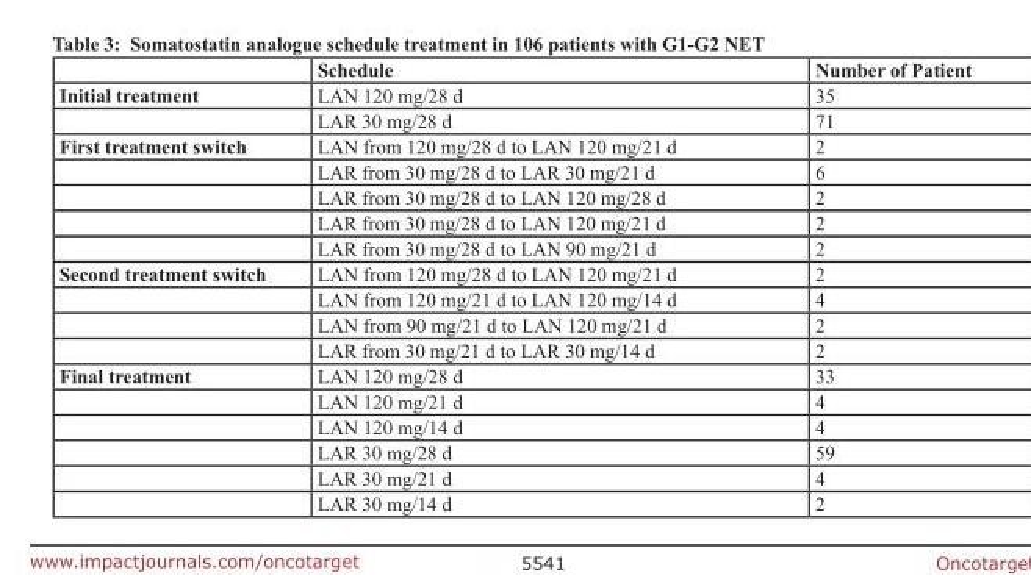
<table><thead><tr><td></td><td>Schedule</td><td>Number of Patient</td></tr></thead><tbody><tr><td rowspan="2">Initial treatment</td><td>LAN 120 mg/28 d</td><td>35</td></tr><tr><td>LAR 30 mg/28 d</td><td>71</td></tr><tr><td rowspan="5">First treatment switch</td><td>LAN from 120 mg/28 d to LAN 120 mg/21 d</td><td>2</td></tr><tr><td>LAR from 30 mg/28 d to LAR 30 mg/21 d</td><td>6</td></tr><tr><td>LAR from 30 mg/28 d to LAN 120 mg/28 d</td><td>2</td></tr><tr><td>LAR from 30 mg/28 d to LAN 120 mg/21 d</td><td>2</td></tr><tr><td>LAR from 30 mg/28 d to LAN 90 mg/21 d</td><td>2</td></tr><tr><td rowspan="4">Second treatment switch</td><td>LAN from 120 mg/28 d to LAN 120 mg/21 d</td><td>2</td></tr><tr><td>LAN from 120 mg/21 d to LAN 120 mg/14 d</td><td>4</td></tr><tr><td>LAN from 90 mg/21 d to LAN 120 mg/21 d</td><td>2</td></tr><tr><td>LAR from 30 mg/21 d to LAR 30 mg/14 d</td><td>2</td></tr><tr><td rowspan="6">Final treatment</td><td>LAN 120 mg/28 d</td><td>33</td></tr><tr><td>LAN 120 mg/21 d</td><td>4</td></tr><tr><td>LAN 120 mg/14 d</td><td>4</td></tr><tr><td>LAR 30 mg/28 d</td><td>59</td></tr><tr><td>LAR 30 mg/21 d</td><td>4</td></tr><tr><td>LAR 30 mg/14 d</td><td>2</td></tr></tbody></table>